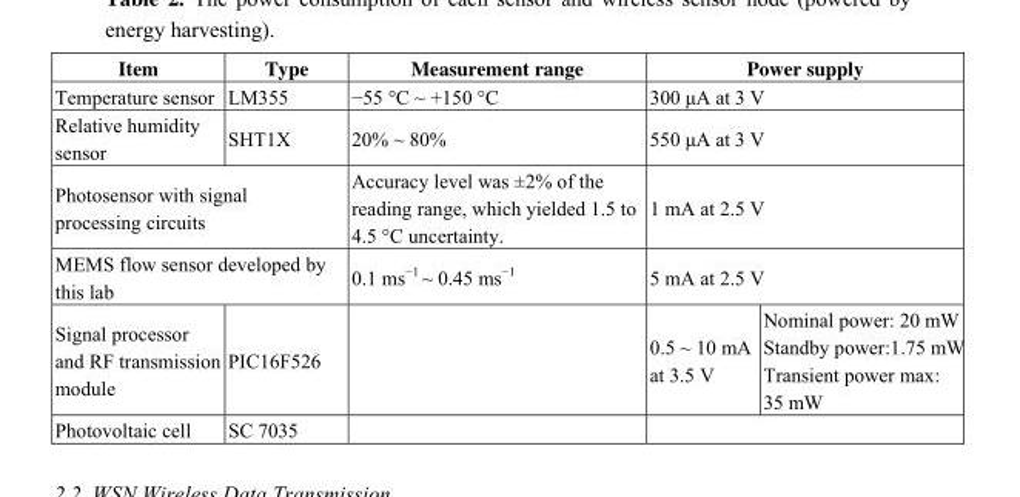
<table><thead><tr><td>Item</td><td>Type</td><td>Measurement range</td><td colspan="2">Power supply</td></tr></thead><tbody><tr><td>Temperature sensor</td><td>LM355</td><td>−55 °C ~ +150 °C</td><td colspan="2">300 μA at 3 V</td></tr><tr><td>Relative humidity sensor</td><td>SHT1X</td><td>20% ~ 80%</td><td colspan="2">550 μA at 3 V</td></tr><tr><td colspan="2">Photosensor with signal processing circuits</td><td>Accuracy level was ±2% of the reading range, which yielded 1.5 to 4.5 °C uncertainty.</td><td colspan="2">1 mA at 2.5 V</td></tr><tr><td colspan="2">MEMS flow sensor developed by this lab</td><td>0.1 ms−1 ~ 0.45 ms−1</td><td colspan="2">5 mA at 2.5 V</td></tr><tr><td>Signal processor and RF transmission module</td><td>PIC16F526</td><td></td><td>0.5 ~ 10 mA at 3.5 V</td><td>Nominal power: 20 mW Standby power:1.75 mW Transient power max: 35 mW</td></tr><tr><td>Photovoltaic cell</td><td>SC 7035</td><td></td><td colspan="2"></td></tr></tbody></table>